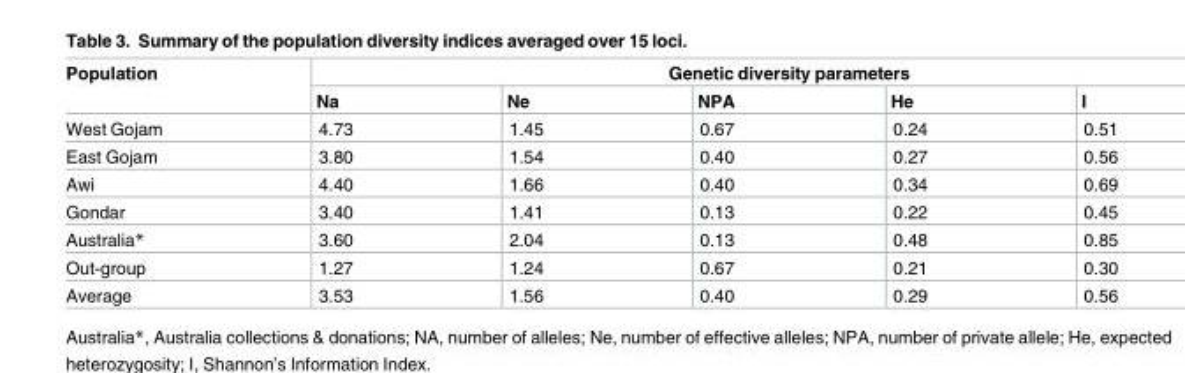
<table><thead><tr><td rowspan="2">Population</td><td colspan="5">Genetic diversity parameters</td></tr><tr><td>Na</td><td>Ne</td><td>NPA</td><td>He</td><td>I</td></tr></thead><tbody><tr><td>West Gojam</td><td>4.73</td><td>1.45</td><td>0.67</td><td>0.24</td><td>0.51</td></tr><tr><td>East Gojam</td><td>3.80</td><td>1.54</td><td>0.40</td><td>0.27</td><td>0.56</td></tr><tr><td>Awi</td><td>4.40</td><td>1.66</td><td>0.40</td><td>0.34</td><td>0.69</td></tr><tr><td>Gondar</td><td>3.40</td><td>1.41</td><td>0.13</td><td>0.22</td><td>0.45</td></tr><tr><td>Australia*</td><td>3.60</td><td>2.04</td><td>0.13</td><td>0.48</td><td>0.85</td></tr><tr><td>Out-group</td><td>1.27</td><td>1.24</td><td>0.67</td><td>0.21</td><td>0.30</td></tr><tr><td>Average</td><td>3.53</td><td>1.56</td><td>0.40</td><td>0.29</td><td>0.56</td></tr></tbody></table>